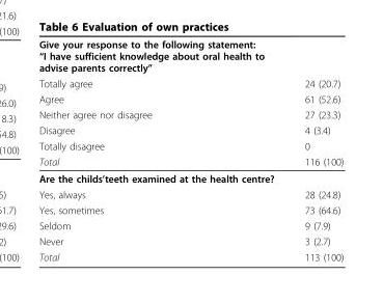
<table><thead><tr><td rowspan="7">Give your response to the following statement: “I have sufficient knowledge about oral health to advise parents correctly” Totally agree Agree Neither agree nor disagree Disagree Totally disagree Total</td><td rowspan="7">24 (20.7) 61 (52.6) 27 (23.3) 4 (3.4) 0 116 (100)</td></tr><tr></tr><tr></tr><tr></tr><tr></tr><tr></tr><tr></tr></thead><tbody><tr><td colspan="2">Are the childs’teeth examined at the health centre?</td></tr><tr><td>Yes, always</td><td>28 (24.8)</td></tr><tr><td>Yes, sometimes</td><td>73 (64.6)</td></tr><tr><td>Seldom</td><td>9 (7.9)</td></tr><tr><td>Never</td><td>3 (2.7)</td></tr><tr><td>Total</td><td>113 (100)</td></tr></tbody></table>